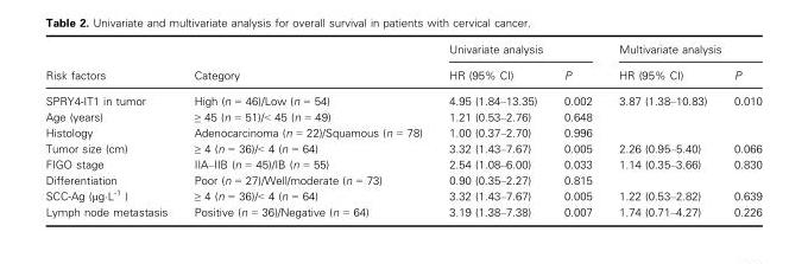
<table><thead><tr><td rowspan="2">Risk factors</td><td rowspan="2">Category</td><td colspan="2">Univariate analysis</td><td colspan="2">Multivariate analysis</td></tr><tr><td>HR (95% CI)</td><td>P</td><td>HR (95% CI)</td><td>P</td></tr></thead><tbody><tr><td>SPRY4-IT1 in tumor</td><td>High (n = 46)/Low (n = 54)</td><td>4.95 (1.84–13.35)</td><td>0.002</td><td>3.87 (1.38–10.83)</td><td>0.010</td></tr><tr><td>Age (years)</td><td>≥ 45 (n = 51)/&lt; 45 (n = 49)</td><td>1.21 (0.53–2.76)</td><td>0.648</td><td></td><td></td></tr><tr><td>Histology</td><td>Adenocarcinoma (n = 22)/Squamous (n = 78)</td><td>1.00 (0.37–2.70)</td><td>0.996</td><td></td><td></td></tr><tr><td>Tumor size (cm)</td><td>≥ 4 (n = 36)/&lt; 4 (n = 64)</td><td>3.32 (1.43–7.67)</td><td>0.005</td><td>2.26 (0.95–5.40)</td><td>0.066</td></tr><tr><td>FIGO stage</td><td>IIA–IIB (n = 45)/IB (n = 55)</td><td>2.54 (1.08–6.00)</td><td>0.033</td><td>1.14 (0.35–3.66)</td><td>0.830</td></tr><tr><td>Differentiation</td><td>Poor (n = 27)/Well/moderate (n = 73)</td><td>0.90 (0.35–2.27)</td><td>0.815</td><td></td><td></td></tr><tr><td>SCC-Ag (lg·L-1 )</td><td>≥ 4 (n = 36)/&lt; 4 (n = 64)</td><td>3.32 (1.43–7.67)</td><td>0.005</td><td>1.22 (0.53–2.82)</td><td>0.639</td></tr><tr><td>Lymph node metastasis</td><td>Positive (n = 36)/Negative (n = 64)</td><td>3.19 (1.38–7.38)</td><td>0.007</td><td>1.74 (0.71–4.27)</td><td>0.226</td></tr></tbody></table>